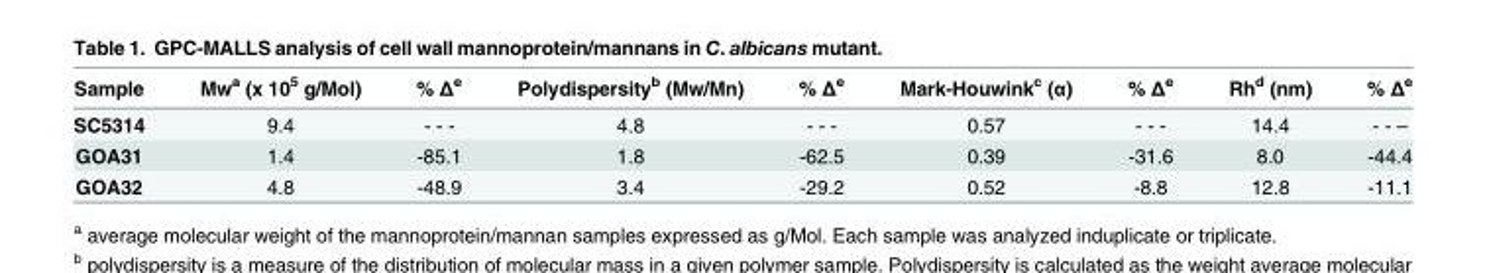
<table><thead><tr><td>Sample</td><td>Mw<sup>a</sup> (x 10<sup>5</sup> g/Mol)</td><td>% Δ<sup>e</sup></td><td>Polydispersity<sup>b</sup> (Mw/Mn)</td><td>% Δ<sup>e</sup></td><td>Mark-Houwink<sup>c</sup> (α)</td><td>% Δ<sup>e</sup></td><td>Rh<sup>d</sup> (nm)</td><td>% Δ<sup>e</sup></td></tr></thead><tbody><tr><td>SC5314</td><td>9.4</td><td>- - -</td><td>4.8</td><td>- - -</td><td>0.57</td><td>- - -</td><td>14.4</td><td>- - –</td></tr><tr><td>GOA31</td><td>1.4</td><td>-85.1</td><td>1.8</td><td>-62.5</td><td>0.39</td><td>-31.6</td><td>8.0</td><td>-44.4</td></tr><tr><td>GOA32</td><td>4.8</td><td>-48.9</td><td>3.4</td><td>-29.2</td><td>0.52</td><td>-8.8</td><td>12.8</td><td>-11.1</td></tr></tbody></table>